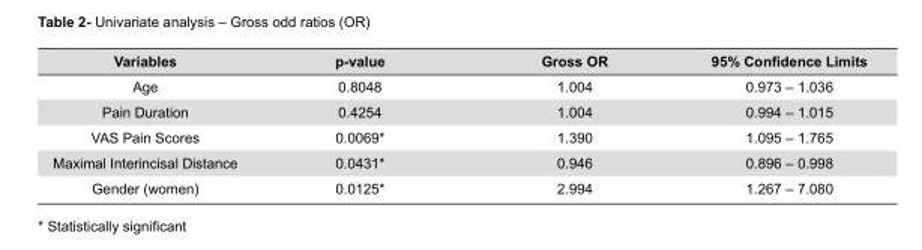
<table><thead><tr><td>Variables</td><td>p-value</td><td>Gross OR</td><td>95% Confidence Limits</td></tr></thead><tbody><tr><td>Age</td><td>0.8048</td><td>1.004</td><td>0.973 – 1.036</td></tr><tr><td>Pain Duration</td><td>0.4254</td><td>1.004</td><td>0.994 – 1.015</td></tr><tr><td>VAS Pain Scores</td><td>0.0069*</td><td>1.390</td><td>1.095 – 1.765</td></tr><tr><td>Maximal Interincisal Distance</td><td>0.0431*</td><td>0.946</td><td>0.896 – 0.998</td></tr><tr><td>Gender (women)</td><td>0.0125*</td><td>2.994</td><td>1.267 – 7.080</td></tr></tbody></table>